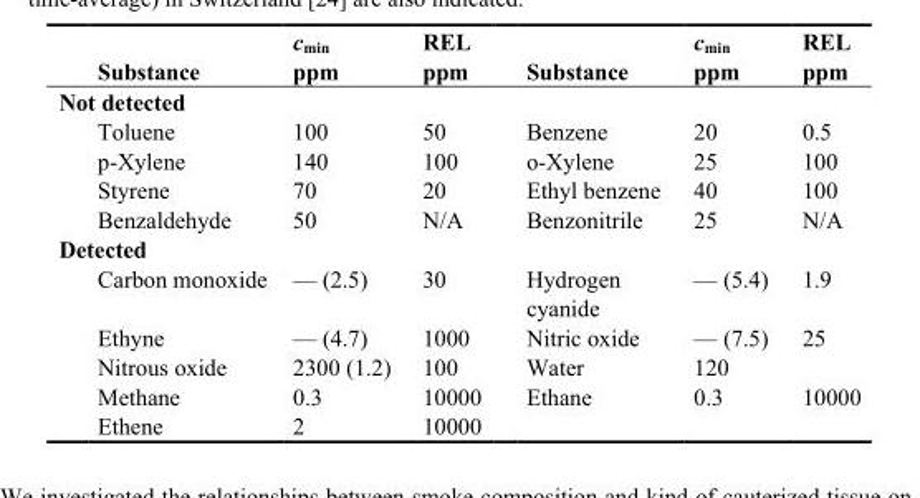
<table><thead><tr><td>Substance</td><td>ppm</td><td>ppm</td><td>Substance</td><td>ppm</td><td>ppm</td></tr></thead><tbody><tr><td colspan="6">Not detected</td></tr><tr><td>Toluene</td><td>100</td><td>50</td><td>Benzene</td><td>20</td><td>0.5</td></tr><tr><td>p-Xylene</td><td>140</td><td>100</td><td>o-Xylene</td><td>25</td><td>100</td></tr><tr><td>Styrene</td><td>70</td><td>20</td><td>Ethyl benzene</td><td>40</td><td>100</td></tr><tr><td>Benzaldehyde</td><td>50</td><td>N/A</td><td>Benzonitrile</td><td>25</td><td>N/A</td></tr><tr><td colspan="6">Detected</td></tr><tr><td>Carbon monoxide</td><td>— (2.5)</td><td>30</td><td>Hydrogen cyanide</td><td>— (5.4)</td><td>1.9</td></tr><tr><td>Ethyne</td><td>— (4.7)</td><td>1000</td><td>Nitric oxide</td><td>— (7.5)</td><td>25</td></tr><tr><td>Nitrous oxide</td><td>2300 (1.2)</td><td>100</td><td>Water</td><td>120</td><td></td></tr><tr><td>Methane</td><td>0.3</td><td>10000</td><td>Ethane</td><td>0.3</td><td>10000</td></tr><tr><td>Ethene</td><td>2</td><td>10000</td><td></td><td></td><td></td></tr></tbody></table>